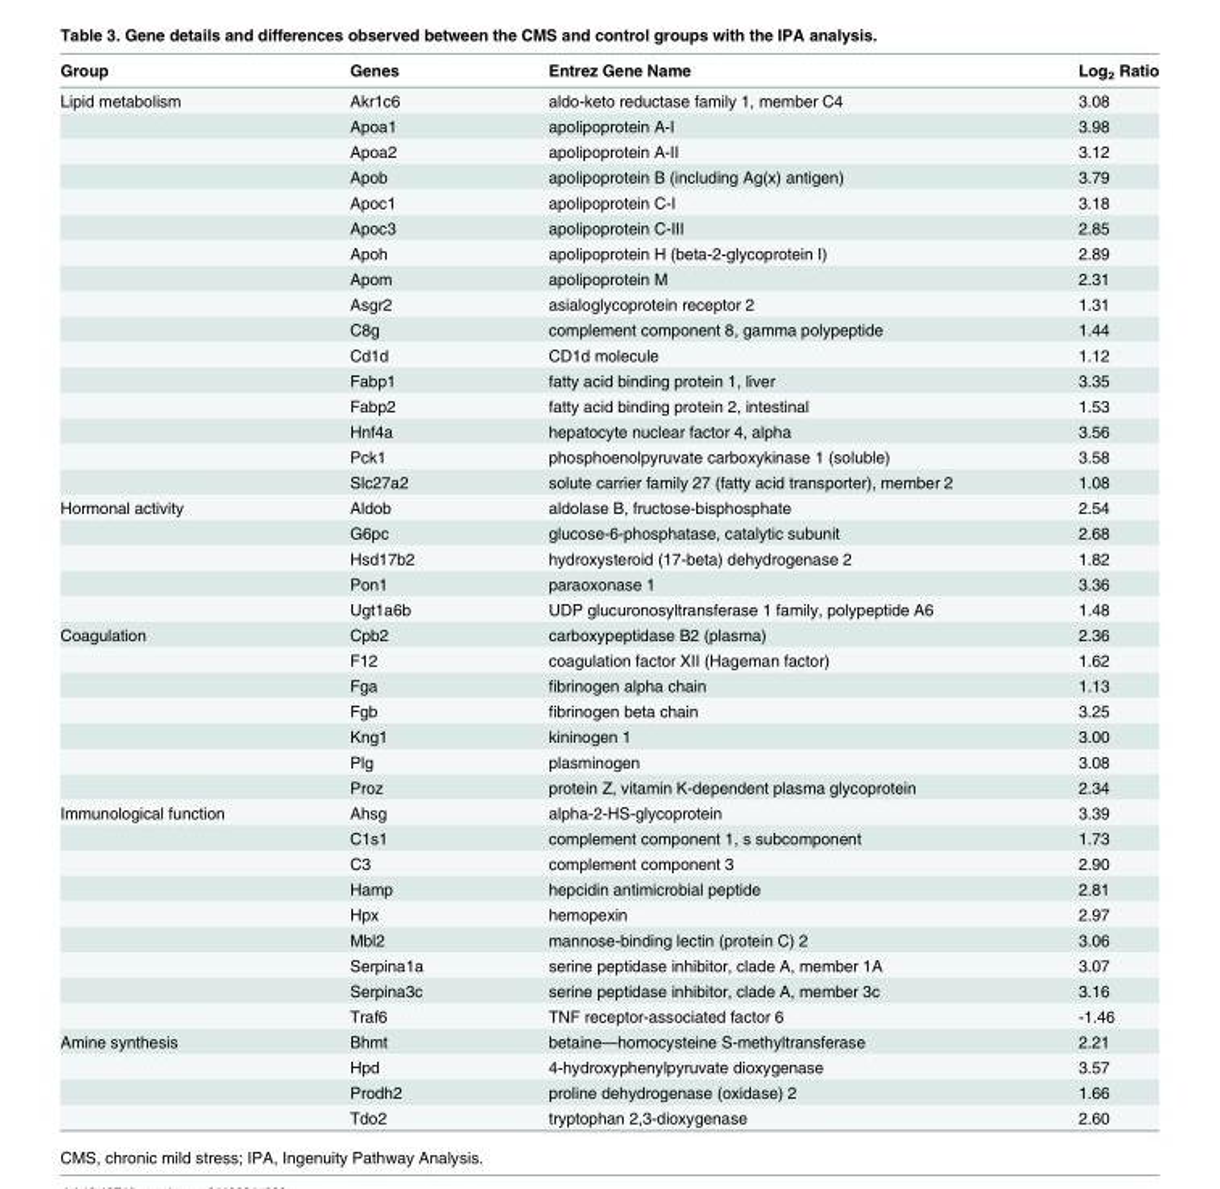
<table><thead><tr><td>Group</td><td>Genes</td><td>Entrez Gene Name</td><td>Log<sub>2</sub> Ratio</td></tr></thead><tbody><tr><td rowspan="16">Lipid metabolism</td><td>Akr1c6</td><td>aldo-keto reductase family 1, member C4</td><td>3.08</td></tr><tr><td>Apoa1</td><td>apolipoprotein A-I</td><td>3.98</td></tr><tr><td>Apoa2</td><td>apolipoprotein A-II</td><td>3.12</td></tr><tr><td>Apob</td><td>apolipoprotein B (including Ag(x) antigen)</td><td>3.79</td></tr><tr><td>Apoc1</td><td>apolipoprotein C-I</td><td>3.18</td></tr><tr><td>Apoc3</td><td>apolipoprotein C-III</td><td>2.85</td></tr><tr><td>Apoh</td><td>apolipoprotein H (beta-2-glycoprotein I)</td><td>2.89</td></tr><tr><td>Apom</td><td>apolipoprotein M</td><td>2.31</td></tr><tr><td>Asgr2</td><td>asialoglycoprotein receptor 2</td><td>1.31</td></tr><tr><td>C8g</td><td>complement component 8, gamma polypeptide</td><td>1.44</td></tr><tr><td>Cd1d</td><td>CD1d molecule</td><td>1.12</td></tr><tr><td>Fabp1</td><td>fatty acid binding protein 1, liver</td><td>3.35</td></tr><tr><td>Fabp2</td><td>fatty acid binding protein 2, intestinal</td><td>1.53</td></tr><tr><td>Hnf4a</td><td>hepatocyte nuclear factor 4, alpha</td><td>3.56</td></tr><tr><td>Pck1</td><td>phosphoenolpyruvate carboxykinase 1 (soluble)</td><td>3.58</td></tr><tr><td>Slc27a2</td><td>solute carrier family 27 (fatty acid transporter), member 2</td><td>1.08</td></tr><tr><td rowspan="5">Hormonal activity</td><td>Aldob</td><td>aldolase B, fructose-bisphosphate</td><td>2.54</td></tr><tr><td>G6pc</td><td>glucose-6-phosphatase, catalytic subunit</td><td>2.68</td></tr><tr><td>Hsd17b2</td><td>hydroxysteroid (17-beta) dehydrogenase 2</td><td>1.82</td></tr><tr><td>Pon1</td><td>paraoxonase 1</td><td>3.36</td></tr><tr><td>Ugt1a6b</td><td>UDP glucuronosyltransferase 1 family, polypeptide A6</td><td>1.48</td></tr><tr><td rowspan="7">Coagulation</td><td>Cpb2</td><td>carboxypeptidase B2 (plasma)</td><td>2.36</td></tr><tr><td>F12</td><td>coagulation factor XII (Hageman factor)</td><td>1.62</td></tr><tr><td>Fga</td><td>fibrinogen alpha chain</td><td>1.13</td></tr><tr><td>Fgb</td><td>fibrinogen beta chain</td><td>3.25</td></tr><tr><td>Kng1</td><td>kininogen 1</td><td>3.00</td></tr><tr><td>Plg</td><td>plasminogen</td><td>3.08</td></tr><tr><td>Proz</td><td>protein Z, vitamin K-dependent plasma glycoprotein</td><td>2.34</td></tr><tr><td rowspan="9">Immunological function</td><td>Ahsg</td><td>alpha-2-HS-glycoprotein</td><td>3.39</td></tr><tr><td>C1s1</td><td>complement component 1, s subcomponent</td><td>1.73</td></tr><tr><td>C3</td><td>complement component 3</td><td>2.90</td></tr><tr><td>Hamp</td><td>hepcidin antimicrobial peptide</td><td>2.81</td></tr><tr><td>Hpx</td><td>hemopexin</td><td>2.97</td></tr><tr><td>Mbl2</td><td>mannose-binding lectin (protein C) 2</td><td>3.06</td></tr><tr><td>Serpina1a</td><td>serine peptidase inhibitor, clade A, member 1A</td><td>3.07</td></tr><tr><td>Serpina3c</td><td>serine peptidase inhibitor, clade A, member 3c</td><td>3.16</td></tr><tr><td>Traf6</td><td>TNF receptor-associated factor 6</td><td>-1.46</td></tr><tr><td rowspan="4">Amine synthesis</td><td>Bhmt</td><td>betaine—homocysteine S-methyltransferase</td><td>2.21</td></tr><tr><td>Hpd</td><td>4-hydroxyphenylpyruvate dioxygenase</td><td>3.57</td></tr><tr><td>Prodh2</td><td>proline dehydrogenase (oxidase) 2</td><td>1.66</td></tr><tr><td>Tdo2</td><td>tryptophan 2,3-dioxygenase</td><td>2.60</td></tr></tbody></table>